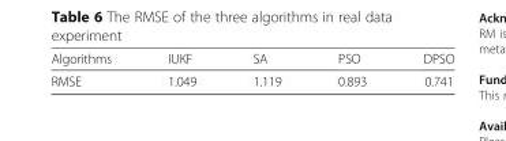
<table><thead><tr><td>Algorithms</td><td>IUKF</td><td>SA</td><td>PSO</td><td>DPSO</td></tr></thead><tbody><tr><td>RMSE</td><td>1.049</td><td>1.119</td><td>0.893</td><td>0.741</td></tr></tbody></table>